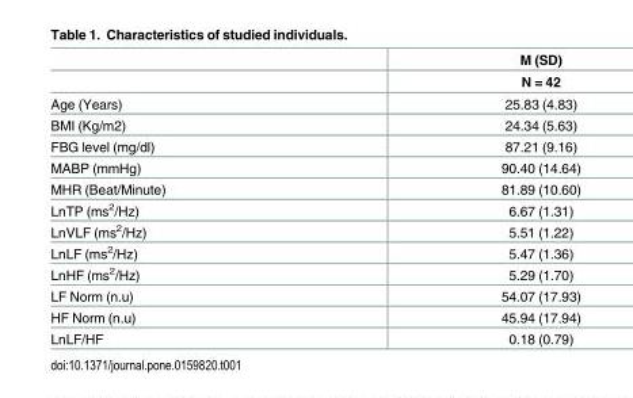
<table><thead><tr><td rowspan="2"></td><td rowspan="2">M (SD) N = 42</td></tr><tr></tr></thead><tbody><tr><td>Age (Years)</td><td>25.83 (4.83)</td></tr><tr><td>BMI (Kg/m2)</td><td>24.34 (5.63)</td></tr><tr><td>FBG level (mg/dl)</td><td>87.21 (9.16)</td></tr><tr><td>MABP (mmHg)</td><td>90.40 (14.64)</td></tr><tr><td>MHR (Beat/Minute)</td><td>81.89 (10.60)</td></tr><tr><td>LnTP (ms<sup>2</sup>/Hz)</td><td>6.67 (1.31)</td></tr><tr><td>LnVLF (ms<sup>2</sup>/Hz)</td><td>5.51 (1.22)</td></tr><tr><td>LnLF (ms<sup>2</sup>/Hz)</td><td>5.47 (1.36)</td></tr><tr><td>LnHF (ms<sup>2</sup>/Hz)</td><td>5.29 (1.70)</td></tr><tr><td>LF Norm (n.u)</td><td>54.07 (17.93)</td></tr><tr><td>HF Norm (n.u)</td><td>45.94 (17.94)</td></tr><tr><td>LnLF/HF</td><td>0.18 (0.79)</td></tr></tbody></table>